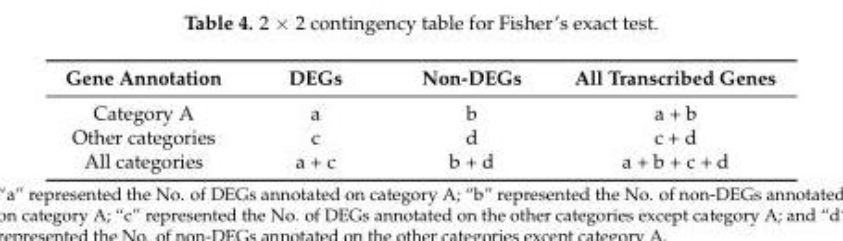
<table><thead><tr><td>Gene Annotation</td><td>DEGs</td><td>Non-DEGs</td><td>All Transcribed Genes</td></tr></thead><tbody><tr><td>Category A</td><td>a</td><td>b</td><td>a + b</td></tr><tr><td>Other categories</td><td>c</td><td>d</td><td>c + d</td></tr><tr><td>All categories</td><td>a + c</td><td>b + d</td><td>a + b + c + d</td></tr></tbody></table>